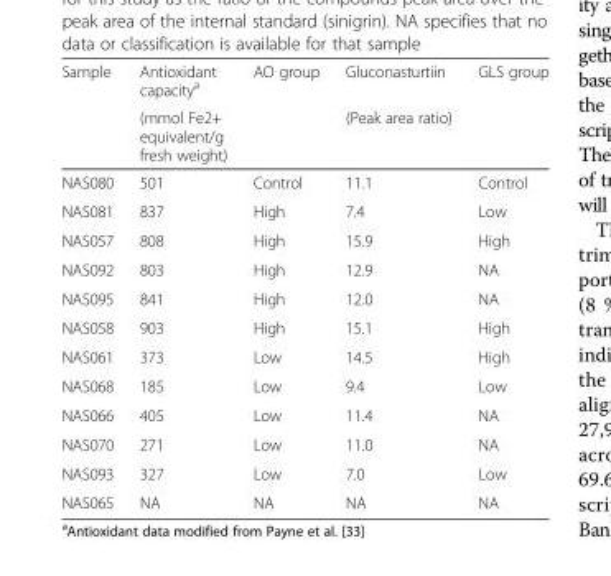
<table><thead><tr><td rowspan="2">Sample</td><td rowspan="2">Antioxidant capacity<sup>a</sup> (mmol Fe2+ equivalent/g fresh weight)</td><td rowspan="2">AO group</td><td rowspan="2">Gluconasturtiin (Peak area ratio)</td><td rowspan="2">GLS group</td></tr><tr></tr></thead><tbody><tr><td>NAS080</td><td>501</td><td>Control</td><td>11.1</td><td>Control</td></tr><tr><td>NAS081</td><td>837</td><td>High</td><td>7.4</td><td>Low</td></tr><tr><td>NAS057</td><td>808</td><td>High</td><td>15.9</td><td>High</td></tr><tr><td>NAS092</td><td>803</td><td>High</td><td>12.9</td><td>NA</td></tr><tr><td>NAS095</td><td>841</td><td>High</td><td>12.0</td><td>NA</td></tr><tr><td>NAS058</td><td>903</td><td>High</td><td>15.1</td><td>High</td></tr><tr><td>NAS061</td><td>373</td><td>Low</td><td>14.5</td><td>High</td></tr><tr><td>NAS068</td><td>185</td><td>Low</td><td>9.4</td><td>Low</td></tr><tr><td>NAS066</td><td>405</td><td>Low</td><td>11.4</td><td>NA</td></tr><tr><td>NAS070</td><td>271</td><td>Low</td><td>11.0</td><td>NA</td></tr><tr><td>NAS093</td><td>327</td><td>Low</td><td>7.0</td><td>Low</td></tr><tr><td>NAS065</td><td>NA</td><td>NA</td><td>NA</td><td>NA</td></tr></tbody></table>